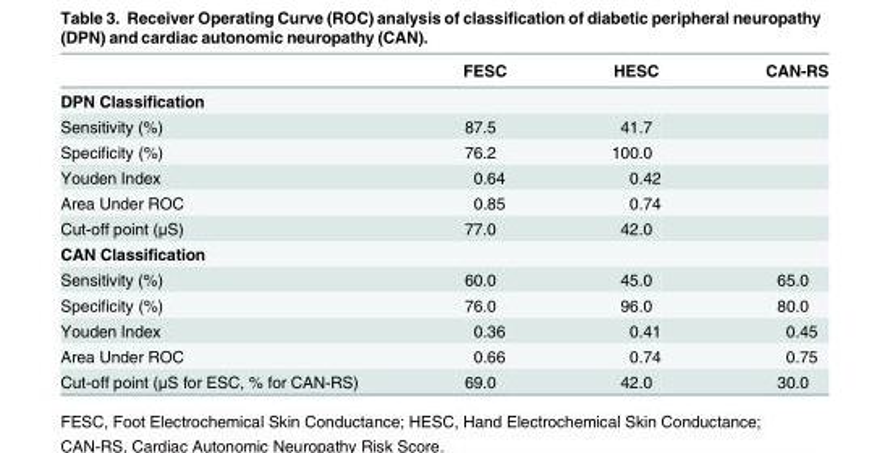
<table><thead><tr><td></td><td>FESC</td><td>HESC</td><td>CAN-RS</td></tr></thead><tbody><tr><td colspan="4">DPN Classification</td></tr><tr><td>Sensitivity (%)</td><td>87.5</td><td>41.7</td><td></td></tr><tr><td>Specificity (%)</td><td>76.2</td><td>100.0</td><td></td></tr><tr><td>Youden Index</td><td>0.64</td><td>0.42</td><td></td></tr><tr><td>Area Under ROC</td><td>0.85</td><td>0.74</td><td></td></tr><tr><td>Cut-off point (μS)</td><td>77.0</td><td>42.0</td><td></td></tr><tr><td colspan="4">CAN Classification</td></tr><tr><td>Sensitivity (%)</td><td>60.0</td><td>45.0</td><td>65.0</td></tr><tr><td>Specificity (%)</td><td>76.0</td><td>96.0</td><td>80.0</td></tr><tr><td>Youden Index</td><td>0.36</td><td>0.41</td><td>0.45</td></tr><tr><td>Area Under ROC</td><td>0.66</td><td>0.74</td><td>0.75</td></tr><tr><td>Cut-off point (μS for ESC, % for CAN-RS)</td><td>69.0</td><td>42.0</td><td>30.0</td></tr></tbody></table>